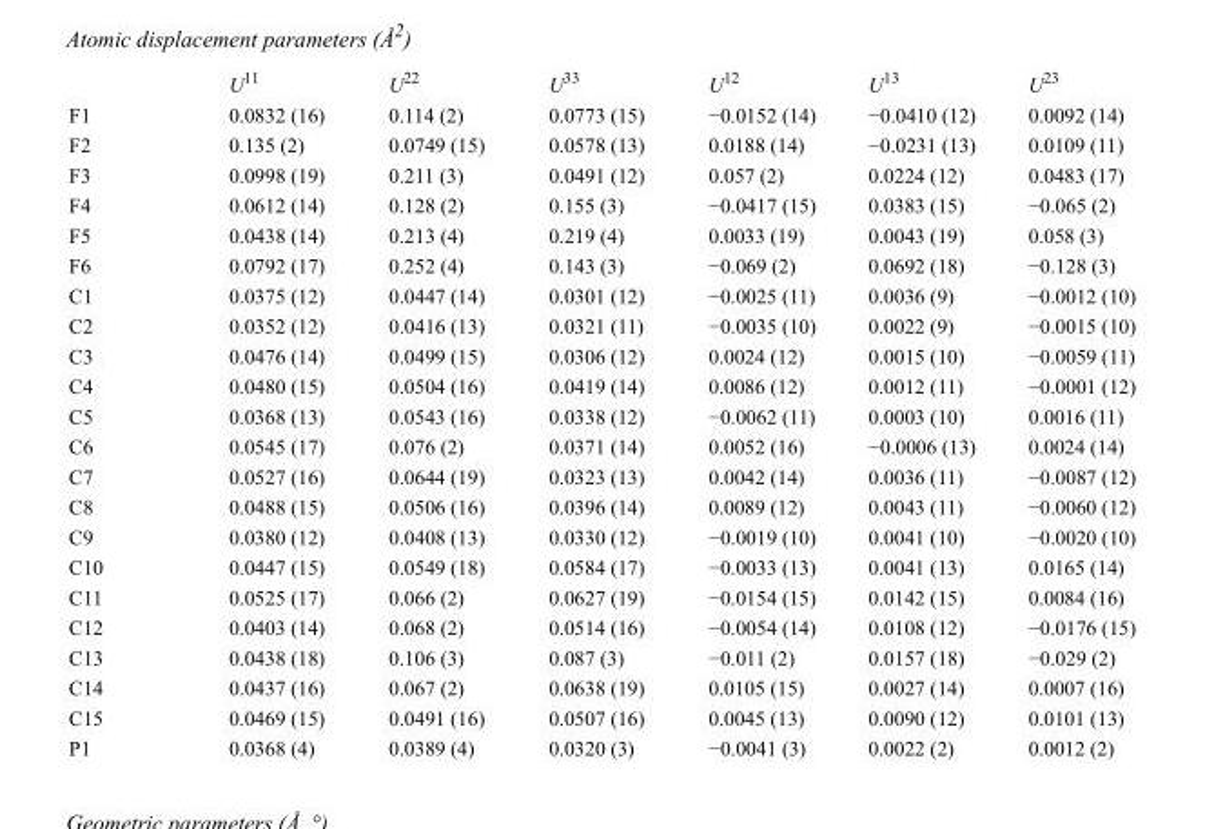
<table><thead><tr><td></td><td>U<sup>11</sup></td><td>U<sup>22</sup></td><td>U<sup>33</sup></td><td>U<sup>12</sup></td><td>U<sup>13</sup></td><td>U<sup>23</sup></td></tr></thead><tbody><tr><td>F1</td><td>0.0832 (16)</td><td>0.114 (2)</td><td>0.0773 (15)</td><td>−0.0152 (14)</td><td>−0.0410 (12)</td><td>0.0092 (14)</td></tr><tr><td>F2</td><td>0.135 (2)</td><td>0.0749 (15)</td><td>0.0578 (13)</td><td>0.0188 (14)</td><td>−0.0231 (13)</td><td>0.0109 (11)</td></tr><tr><td>F3</td><td>0.0998 (19)</td><td>0.211 (3)</td><td>0.0491 (12)</td><td>0.057 (2)</td><td>0.0224 (12)</td><td>0.0483 (17)</td></tr><tr><td>F4</td><td>0.0612 (14)</td><td>0.128 (2)</td><td>0.155 (3)</td><td>−0.0417 (15)</td><td>0.0383 (15)</td><td>−0.065 (2)</td></tr><tr><td>F5</td><td>0.0438 (14)</td><td>0.213 (4)</td><td>0.219 (4)</td><td>0.0033 (19)</td><td>0.0043 (19)</td><td>0.058 (3)</td></tr><tr><td>F6</td><td>0.0792 (17)</td><td>0.252 (4)</td><td>0.143 (3)</td><td>−0.069 (2)</td><td>0.0692 (18)</td><td>−0.128 (3)</td></tr><tr><td>C1</td><td>0.0375 (12)</td><td>0.0447 (14)</td><td>0.0301 (12)</td><td>−0.0025 (11)</td><td>0.0036 (9)</td><td>−0.0012 (10)</td></tr><tr><td>C2</td><td>0.0352 (12)</td><td>0.0416 (13)</td><td>0.0321 (11)</td><td>−0.0035 (10)</td><td>0.0022 (9)</td><td>−0.0015 (10)</td></tr><tr><td>C3</td><td>0.0476 (14)</td><td>0.0499 (15)</td><td>0.0306 (12)</td><td>0.0024 (12)</td><td>0.0015 (10)</td><td>−0.0059 (11)</td></tr><tr><td>C4</td><td>0.0480 (15)</td><td>0.0504 (16)</td><td>0.0419 (14)</td><td>0.0086 (12)</td><td>0.0012 (11)</td><td>−0.0001 (12)</td></tr><tr><td>C5</td><td>0.0368 (13)</td><td>0.0543 (16)</td><td>0.0338 (12)</td><td>−0.0062 (11)</td><td>0.0003 (10)</td><td>0.0016 (11)</td></tr><tr><td>C6</td><td>0.0545 (17)</td><td>0.076 (2)</td><td>0.0371 (14)</td><td>0.0052 (16)</td><td>−0.0006 (13)</td><td>0.0024 (14)</td></tr><tr><td>C7</td><td>0.0527 (16)</td><td>0.0644 (19)</td><td>0.0323 (13)</td><td>0.0042 (14)</td><td>0.0036 (11)</td><td>−0.0087 (12)</td></tr><tr><td>C8</td><td>0.0488 (15)</td><td>0.0506 (16)</td><td>0.0396 (14)</td><td>0.0089 (12)</td><td>0.0043 (11)</td><td>−0.0060 (12)</td></tr><tr><td>C9</td><td>0.0380 (12)</td><td>0.0408 (13)</td><td>0.0330 (12)</td><td>−0.0019 (10)</td><td>0.0041 (10)</td><td>−0.0020 (10)</td></tr><tr><td>C10</td><td>0.0447 (15)</td><td>0.0549 (18)</td><td>0.0584 (17)</td><td>−0.0033 (13)</td><td>0.0041 (13)</td><td>0.0165 (14)</td></tr><tr><td>C11</td><td>0.0525 (17)</td><td>0.066 (2)</td><td>0.0627 (19)</td><td>−0.0154 (15)</td><td>0.0142 (15)</td><td>0.0084 (16)</td></tr><tr><td>C12</td><td>0.0403 (14)</td><td>0.068 (2)</td><td>0.0514 (16)</td><td>−0.0054 (14)</td><td>0.0108 (12)</td><td>−0.0176 (15)</td></tr><tr><td>C13</td><td>0.0438 (18)</td><td>0.106 (3)</td><td>0.087 (3)</td><td>−0.011 (2)</td><td>0.0157 (18)</td><td>−0.029 (2)</td></tr><tr><td>C14</td><td>0.0437 (16)</td><td>0.067 (2)</td><td>0.0638 (19)</td><td>0.0105 (15)</td><td>0.0027 (14)</td><td>0.0007 (16)</td></tr><tr><td>C15</td><td>0.0469 (15)</td><td>0.0491 (16)</td><td>0.0507 (16)</td><td>0.0045 (13)</td><td>0.0090 (12)</td><td>0.0101 (13)</td></tr><tr><td>P1</td><td>0.0368 (4)</td><td>0.0389 (4)</td><td>0.0320 (3)</td><td>−0.0041 (3)</td><td>0.0022 (2)</td><td>0.0012 (2)</td></tr></tbody></table>